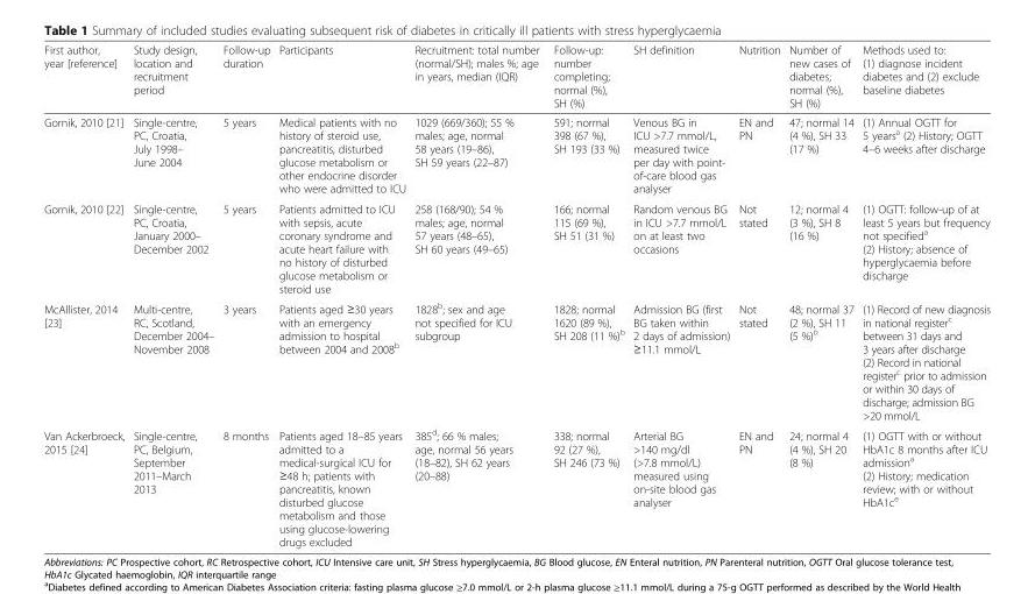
<table><thead><tr><td>First author, year [reference]</td><td>Study design, location and recruitment period</td><td>Follow-up duration</td><td>Participants</td><td>Recruitment: total number (normal/SH); males %; age in years, median (IQR)</td><td>Follow-up: number completing; normal (%), SH (%)</td><td>SH definition</td><td>Nutrition</td><td>Number of new cases of diabetes; normal (%), SH (%)</td><td>Methods used to: (1) diagnose incident diabetes and (2) exclude baseline diabetes</td></tr></thead><tbody><tr><td>Gornik, 2010 [21]</td><td>Single-centre, PC, Croatia, July 1998– June 2004</td><td>5 years</td><td>Medical patients with no history of steroid use, pancreatitis, disturbed glucose metabolism or other endocrine disorder who were admitted to ICU</td><td>1029 (669/360); 55 % males; age, normal 58 years (19–86), SH 59 years (22–87)</td><td>591; normal 398 (67 %), SH 193 (33 %)</td><td>Venous BG in ICU &gt;7.7 mmol/L, measured twice per day with point- of-care blood gas analyser</td><td>EN and PN</td><td>47; normal 14 (4 %), SH 33 (17 %)</td><td>(1) Annual OGTT for 5 years<sup>a</sup> (2) History; OGTT 4–6 weeks after discharge</td></tr><tr><td>Gornik, 2010 [22]</td><td>Single-centre, PC, Croatia, January 2000– December 2002</td><td>5 years</td><td>Patients admitted to ICU with sepsis, acute coronary syndrome and acute heart failure with no history of disturbed glucose metabolism or steroid use</td><td>258 (168/90); 54 % males; age, normal 57 years (48–65), SH 60 years (49–65)</td><td>166; normal 115 (69 %), SH 51 (31 %)</td><td>Random venous BG in ICU &gt;7.7 mmol/L on at least two occasions</td><td>Not stated</td><td>12; normal 4 (3 %), SH 8 (16 %)</td><td>(1) OGTT: follow-up of at least 5 years but frequency not specified<sup>a</sup> (2) History; absence of hyperglycaemia before discharge</td></tr><tr><td>McAllister, 2014 [23]</td><td>Multi-centre, RC, Scotland, December 2004– November 2008</td><td>3 years</td><td>Patients aged ≥30 years with an emergency admission to hospital between 2004 and 2008<sup>b</sup></td><td>1828<sup>b</sup>; sex and age not specified for ICU subgroup</td><td>1828; normal 1620 (89 %), SH 208 (11 %)<sup>b</sup></td><td>Admission BG (first BG taken within 2 days of admission) ≥11.1 mmol/L</td><td>Not stated</td><td>48; normal 37 (2 %), SH 11 (5 %)<sup>b</sup></td><td>(1) Record of new diagnosis in national register<sup>c</sup> between 31 days and 3 years after discharge (2) Record in national register<sup>c</sup> prior to admission or within 30 days of discharge; admission BG &gt;20 mmol/L</td></tr><tr><td>Van Ackerbroeck, 2015 [24]</td><td>Single-centre, PC, Belgium, September 2011–March 2013</td><td>8 months</td><td>Patients aged 18–85 years admitted to a medical-surgical ICU for ≥48 h; patients with pancreatitis, known disturbed glucose metabolism and those using glucose-lowering drugs excluded</td><td>385<sup>d</sup>; 66 % males; age, normal 56 years (18–82), SH 62 years (20–88)</td><td>338; normal 92 (27 %), SH 246 (73 %)</td><td>Arterial BG &gt;140 mg/dl (&gt;7.8 mmol/L) measured using on-site blood gas analyser</td><td>EN and PN</td><td>24; normal 4 (4 %), SH 20 (8 %)</td><td>(1) OGTT with or without HbA1c 8 months after ICU admission<sup>a</sup> (2) History; medication review; with or without HbA1c<sup>e</sup></td></tr></tbody></table>